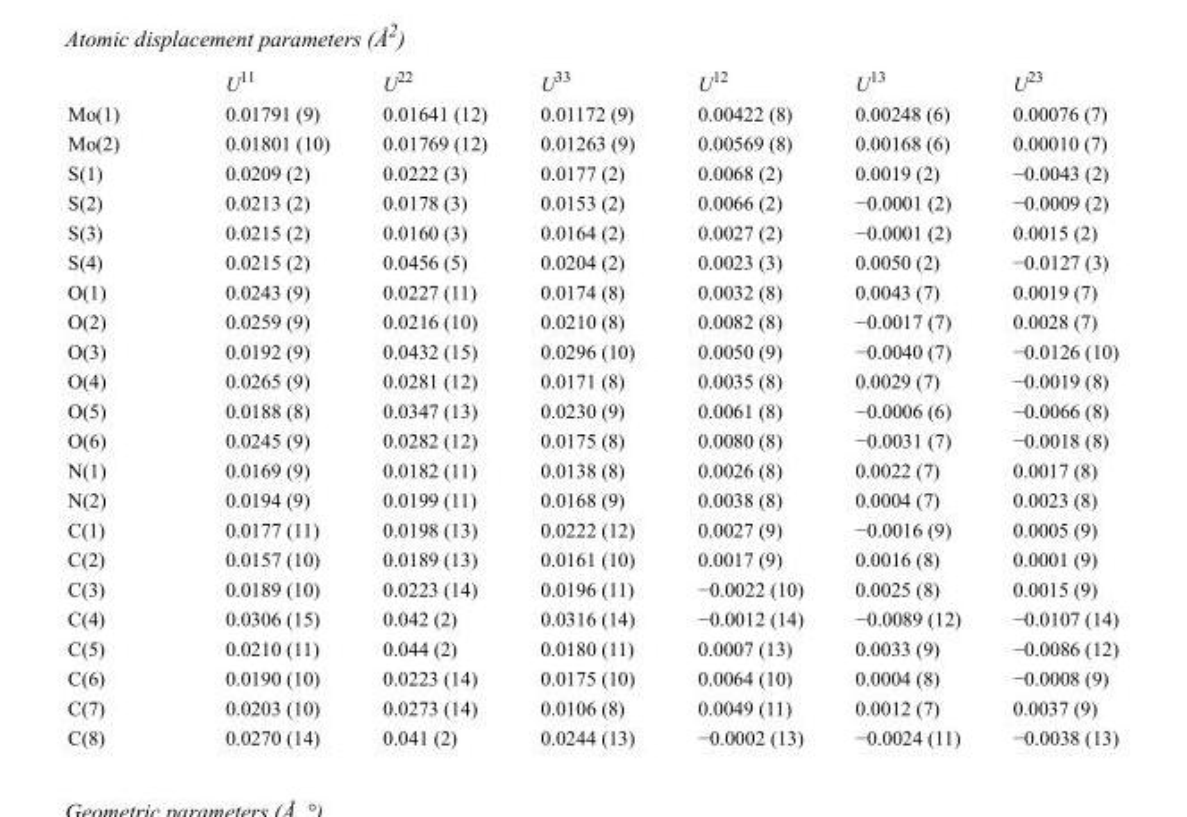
<table><thead><tr><td></td><td>U<sup>11</sup></td><td>U<sup>22</sup></td><td>U<sup>33</sup></td><td>U<sup>12</sup></td><td>U<sup>13</sup></td><td>U<sup>23</sup></td></tr></thead><tbody><tr><td>Mo(1)</td><td>0.01791 (9)</td><td>0.01641 (12)</td><td>0.01172 (9)</td><td>0.00422 (8)</td><td>0.00248 (6)</td><td>0.00076 (7)</td></tr><tr><td>Mo(2)</td><td>0.01801 (10)</td><td>0.01769 (12)</td><td>0.01263 (9)</td><td>0.00569 (8)</td><td>0.00168 (6)</td><td>0.00010 (7)</td></tr><tr><td>S(1)</td><td>0.0209 (2)</td><td>0.0222 (3)</td><td>0.0177 (2)</td><td>0.0068 (2)</td><td>0.0019 (2)</td><td>−0.0043 (2)</td></tr><tr><td>S(2)</td><td>0.0213 (2)</td><td>0.0178 (3)</td><td>0.0153 (2)</td><td>0.0066 (2)</td><td>−0.0001 (2)</td><td>−0.0009 (2)</td></tr><tr><td>S(3)</td><td>0.0215 (2)</td><td>0.0160 (3)</td><td>0.0164 (2)</td><td>0.0027 (2)</td><td>−0.0001 (2)</td><td>0.0015 (2)</td></tr><tr><td>S(4)</td><td>0.0215 (2)</td><td>0.0456 (5)</td><td>0.0204 (2)</td><td>0.0023 (3)</td><td>0.0050 (2)</td><td>−0.0127 (3)</td></tr><tr><td>O(1)</td><td>0.0243 (9)</td><td>0.0227 (11)</td><td>0.0174 (8)</td><td>0.0032 (8)</td><td>0.0043 (7)</td><td>0.0019 (7)</td></tr><tr><td>O(2)</td><td>0.0259 (9)</td><td>0.0216 (10)</td><td>0.0210 (8)</td><td>0.0082 (8)</td><td>−0.0017 (7)</td><td>0.0028 (7)</td></tr><tr><td>O(3)</td><td>0.0192 (9)</td><td>0.0432 (15)</td><td>0.0296 (10)</td><td>0.0050 (9)</td><td>−0.0040 (7)</td><td>−0.0126 (10)</td></tr><tr><td>O(4)</td><td>0.0265 (9)</td><td>0.0281 (12)</td><td>0.0171 (8)</td><td>0.0035 (8)</td><td>0.0029 (7)</td><td>−0.0019 (8)</td></tr><tr><td>O(5)</td><td>0.0188 (8)</td><td>0.0347 (13)</td><td>0.0230 (9)</td><td>0.0061 (8)</td><td>−0.0006 (6)</td><td>−0.0066 (8)</td></tr><tr><td>O(6)</td><td>0.0245 (9)</td><td>0.0282 (12)</td><td>0.0175 (8)</td><td>0.0080 (8)</td><td>−0.0031 (7)</td><td>−0.0018 (8)</td></tr><tr><td>N(1)</td><td>0.0169 (9)</td><td>0.0182 (11)</td><td>0.0138 (8)</td><td>0.0026 (8)</td><td>0.0022 (7)</td><td>0.0017 (8)</td></tr><tr><td>N(2)</td><td>0.0194 (9)</td><td>0.0199 (11)</td><td>0.0168 (9)</td><td>0.0038 (8)</td><td>0.0004 (7)</td><td>0.0023 (8)</td></tr><tr><td>C(1)</td><td>0.0177 (11)</td><td>0.0198 (13)</td><td>0.0222 (12)</td><td>0.0027 (9)</td><td>−0.0016 (9)</td><td>0.0005 (9)</td></tr><tr><td>C(2)</td><td>0.0157 (10)</td><td>0.0189 (13)</td><td>0.0161 (10)</td><td>0.0017 (9)</td><td>0.0016 (8)</td><td>0.0001 (9)</td></tr><tr><td>C(3)</td><td>0.0189 (10)</td><td>0.0223 (14)</td><td>0.0196 (11)</td><td>−0.0022 (10)</td><td>0.0025 (8)</td><td>0.0015 (9)</td></tr><tr><td>C(4)</td><td>0.0306 (15)</td><td>0.042 (2)</td><td>0.0316 (14)</td><td>−0.0012 (14)</td><td>−0.0089 (12)</td><td>−0.0107 (14)</td></tr><tr><td>C(5)</td><td>0.0210 (11)</td><td>0.044 (2)</td><td>0.0180 (11)</td><td>0.0007 (13)</td><td>0.0033 (9)</td><td>−0.0086 (12)</td></tr><tr><td>C(6)</td><td>0.0190 (10)</td><td>0.0223 (14)</td><td>0.0175 (10)</td><td>0.0064 (10)</td><td>0.0004 (8)</td><td>−0.0008 (9)</td></tr><tr><td>C(7)</td><td>0.0203 (10)</td><td>0.0273 (14)</td><td>0.0106 (8)</td><td>0.0049 (11)</td><td>0.0012 (7)</td><td>0.0037 (9)</td></tr><tr><td>C(8)</td><td>0.0270 (14)</td><td>0.041 (2)</td><td>0.0244 (13)</td><td>−0.0002 (13)</td><td>−0.0024 (11)</td><td>−0.0038 (13)</td></tr></tbody></table>